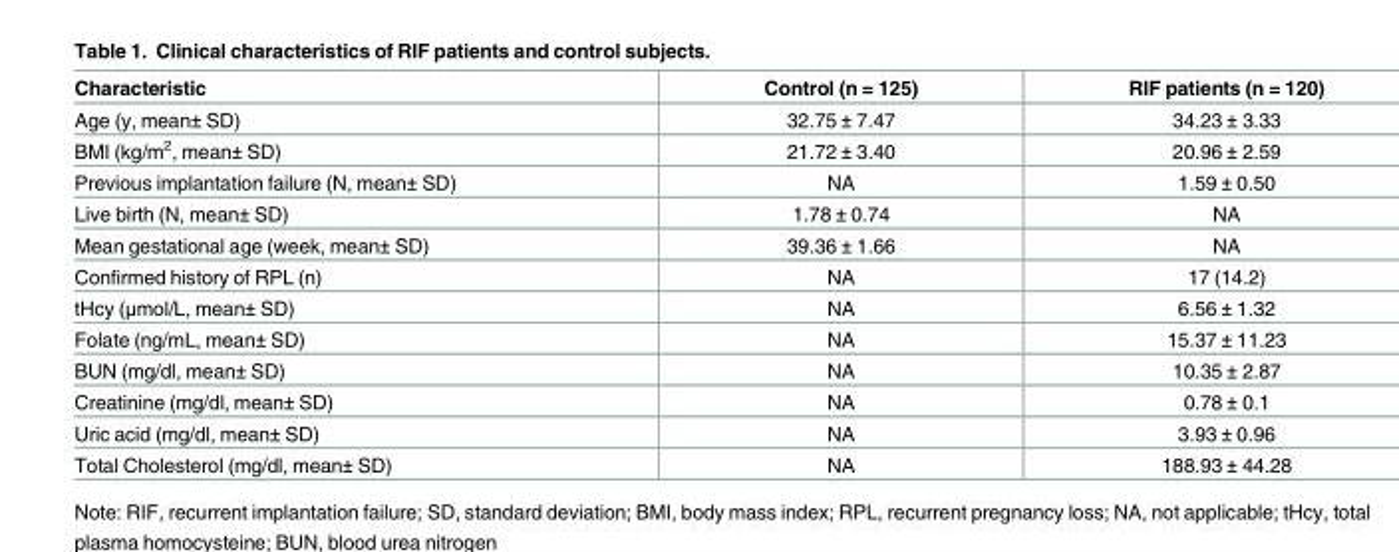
<table><thead><tr><td>Characteristic</td><td>Control (n = 125)</td><td>RIF patients (n = 120)</td></tr></thead><tbody><tr><td>Age (y, mean± SD)</td><td>32.75 ± 7.47</td><td>34.23 ± 3.33</td></tr><tr><td>BMI (kg/m<sup>2</sup>, mean± SD)</td><td>21.72 ± 3.40</td><td>20.96 ± 2.59</td></tr><tr><td>Previous implantation failure (N, mean± SD)</td><td>NA</td><td>1.59 ± 0.50</td></tr><tr><td>Live birth (N, mean± SD)</td><td>1.78 ± 0.74</td><td>NA</td></tr><tr><td>Mean gestational age (week, mean± SD)</td><td>39.36 ± 1.66</td><td>NA</td></tr><tr><td>Confirmed history of RPL (n)</td><td>NA</td><td>17 (14.2)</td></tr><tr><td>tHcy (μmol/L, mean± SD)</td><td>NA</td><td>6.56 ± 1.32</td></tr><tr><td>Folate (ng/mL, mean± SD)</td><td>NA</td><td>15.37 ± 11.23</td></tr><tr><td>BUN (mg/dl, mean± SD)</td><td>NA</td><td>10.35 ± 2.87</td></tr><tr><td>Creatinine (mg/dl, mean± SD)</td><td>NA</td><td>0.78 ± 0.1</td></tr><tr><td>Uric acid (mg/dl, mean± SD)</td><td>NA</td><td>3.93 ± 0.96</td></tr><tr><td>Total Cholesterol (mg/dl, mean± SD)</td><td>NA</td><td>188.93 ± 44.28</td></tr></tbody></table>